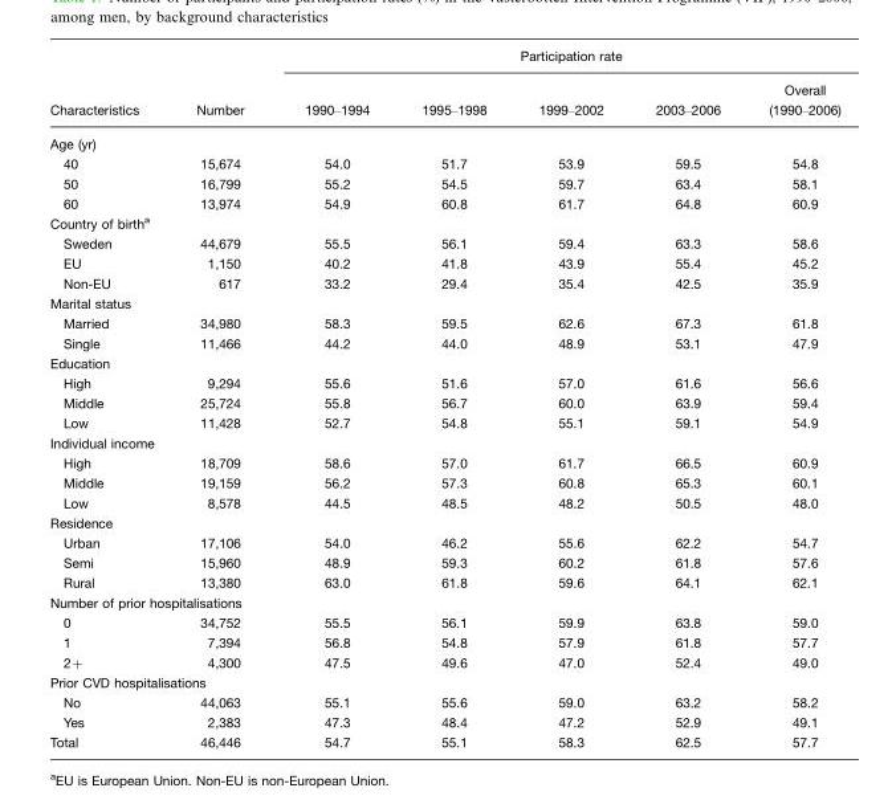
<table><thead><tr><td rowspan="2">Characteristics</td><td rowspan="2">Number</td><td colspan="5">Participation rate</td></tr><tr><td>1990–1994</td><td>1995–1998</td><td>1999–2002</td><td>2003–2006</td><td>Overall (1990–2006)</td></tr></thead><tbody><tr><td colspan="7">Age (yr)</td></tr><tr><td>40</td><td>15,674</td><td>54.0</td><td>51.7</td><td>53.9</td><td>59.5</td><td>54.8</td></tr><tr><td>50</td><td>16,799</td><td>55.2</td><td>54.5</td><td>59.7</td><td>63.4</td><td>58.1</td></tr><tr><td>60</td><td>13,974</td><td>54.9</td><td>60.8</td><td>61.7</td><td>64.8</td><td>60.9</td></tr><tr><td colspan="7">Country of birth<sup>a</sup></td></tr><tr><td>Sweden</td><td>44,679</td><td>55.5</td><td>56.1</td><td>59.4</td><td>63.3</td><td>58.6</td></tr><tr><td>EU</td><td>1,150</td><td>40.2</td><td>41.8</td><td>43.9</td><td>55.4</td><td>45.2</td></tr><tr><td>Non-EU</td><td>617</td><td>33.2</td><td>29.4</td><td>35.4</td><td>42.5</td><td>35.9</td></tr><tr><td colspan="7">Marital status</td></tr><tr><td>Married</td><td>34,980</td><td>58.3</td><td>59.5</td><td>62.6</td><td>67.3</td><td>61.8</td></tr><tr><td>Single</td><td>11,466</td><td>44.2</td><td>44.0</td><td>48.9</td><td>53.1</td><td>47.9</td></tr><tr><td colspan="7">Education</td></tr><tr><td>High</td><td>9,294</td><td>55.6</td><td>51.6</td><td>57.0</td><td>61.6</td><td>56.6</td></tr><tr><td>Middle</td><td>25,724</td><td>55.8</td><td>56.7</td><td>60.0</td><td>63.9</td><td>59.4</td></tr><tr><td>Low</td><td>11,428</td><td>52.7</td><td>54.8</td><td>55.1</td><td>59.1</td><td>54.9</td></tr><tr><td colspan="7">Individual income</td></tr><tr><td>High</td><td>18,709</td><td>58.6</td><td>57.0</td><td>61.7</td><td>66.5</td><td>60.9</td></tr><tr><td>Middle</td><td>19,159</td><td>56.2</td><td>57.3</td><td>60.8</td><td>65.3</td><td>60.1</td></tr><tr><td>Low</td><td>8,578</td><td>44.5</td><td>48.5</td><td>48.2</td><td>50.5</td><td>48.0</td></tr><tr><td colspan="7">Residence</td></tr><tr><td>Urban</td><td>17,106</td><td>54.0</td><td>46.2</td><td>55.6</td><td>62.2</td><td>54.7</td></tr><tr><td>Semi</td><td>15,960</td><td>48.9</td><td>59.3</td><td>60.2</td><td>61.8</td><td>57.6</td></tr><tr><td>Rural</td><td>13,380</td><td>63.0</td><td>61.8</td><td>59.6</td><td>64.1</td><td>62.1</td></tr><tr><td colspan="7">Number of prior hospitalisations</td></tr><tr><td>0</td><td>34,752</td><td>55.5</td><td>56.1</td><td>59.9</td><td>63.8</td><td>59.0</td></tr><tr><td>1</td><td>7,394</td><td>56.8</td><td>54.8</td><td>57.9</td><td>61.8</td><td>57.7</td></tr><tr><td>2+</td><td>4,300</td><td>47.5</td><td>49.6</td><td>47.0</td><td>52.4</td><td>49.0</td></tr><tr><td colspan="7">Prior CVD hospitalisations</td></tr><tr><td>No</td><td>44,063</td><td>55.1</td><td>55.6</td><td>59.0</td><td>63.2</td><td>58.2</td></tr><tr><td>Yes</td><td>2,383</td><td>47.3</td><td>48.4</td><td>47.2</td><td>52.9</td><td>49.1</td></tr><tr><td>Total</td><td>46,446</td><td>54.7</td><td>55.1</td><td>58.3</td><td>62.5</td><td>57.7</td></tr></tbody></table>